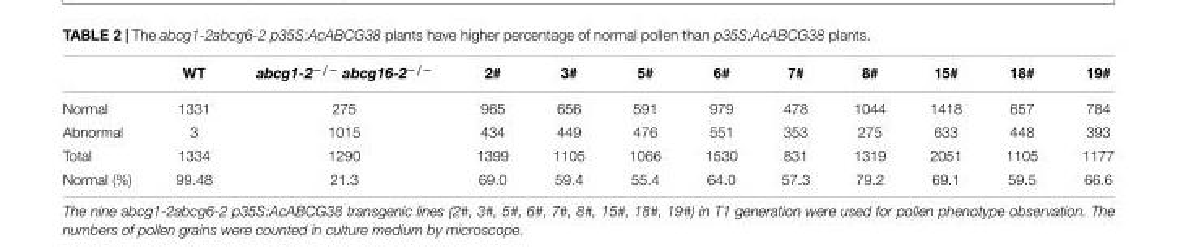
<table><thead><tr><td></td><td>WT</td><td>abcg1-2<sup>−/−</sup> abcg16-2<sup>−/−</sup></td><td>2#</td><td>3#</td><td>5#</td><td>6#</td><td>7#</td><td>8#</td><td>15#</td><td>18#</td><td>19#</td></tr></thead><tbody><tr><td>Normal</td><td>1331</td><td>275</td><td>965</td><td>656</td><td>591</td><td>979</td><td>478</td><td>1044</td><td>1418</td><td>657</td><td>784</td></tr><tr><td>Abnormal</td><td>3</td><td>1015</td><td>434</td><td>449</td><td>476</td><td>551</td><td>353</td><td>275</td><td>633</td><td>448</td><td>393</td></tr><tr><td>Total</td><td>1334</td><td>1290</td><td>1399</td><td>1105</td><td>1066</td><td>1530</td><td>831</td><td>1319</td><td>2051</td><td>1105</td><td>1177</td></tr><tr><td>Normal (%)</td><td>99.48</td><td>21.3</td><td>69.0</td><td>59.4</td><td>55.4</td><td>64.0</td><td>57.3</td><td>79.2</td><td>69.1</td><td>59.5</td><td>66.6</td></tr></tbody></table>